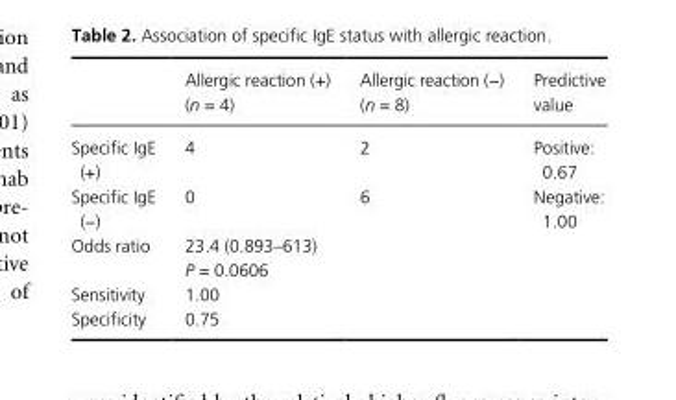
<table><thead><tr><td></td><td>Allergic reaction (+) (n = 4)</td><td>Allergic reaction (−) (n = 8)</td><td>Predictive value</td></tr></thead><tbody><tr><td>Specific IgE (+)</td><td>4</td><td>2</td><td>Positive: 0.67</td></tr><tr><td>Specific IgE (−)</td><td>0</td><td>6</td><td>Negative: 1.00</td></tr><tr><td rowspan="2">Odds ratio</td><td colspan="2">23.4 (0.893–613)</td><td rowspan="2"></td></tr><tr><td colspan="2">P = 0.0606</td></tr><tr><td>Sensitivity</td><td colspan="2">1.00</td><td></td></tr><tr><td>Specificity</td><td colspan="2">0.75</td><td></td></tr></tbody></table>